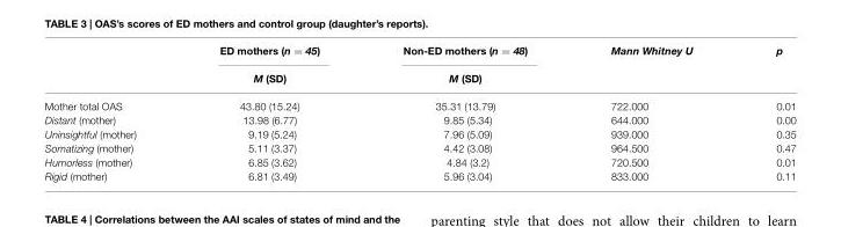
<table><thead><tr><td rowspan="2"></td><td rowspan="2">ED mothers (n = 45) M (SD)</td><td rowspan="2">Non-ED mothers (n = 48) M (SD)</td><td rowspan="2">Mann Whitney U</td><td rowspan="2">p</td></tr><tr></tr></thead><tbody><tr><td>Mother total OAS</td><td>43.80 (15.24)</td><td>35.31 (13.79)</td><td>722.000</td><td>0.01</td></tr><tr><td>Distant (mother)</td><td>13.98 (6.77)</td><td>9.85 (5.34)</td><td>644.000</td><td>0.00</td></tr><tr><td>Uninsightful (mother)</td><td>9.19 (5.24)</td><td>7.96 (5.09)</td><td>939.000</td><td>0.35</td></tr><tr><td>Somatizing (mother)</td><td>5.11 (3.37)</td><td>4.42 (3.08)</td><td>964.500</td><td>0.47</td></tr><tr><td>Humorless (mother)</td><td>6.85 (3.62)</td><td>4.84 (3.2)</td><td>720.500</td><td>0.01</td></tr><tr><td>Rigid (mother)</td><td>6.81 (3.49)</td><td>5.96 (3.04)</td><td>833.000</td><td>0.11</td></tr></tbody></table>